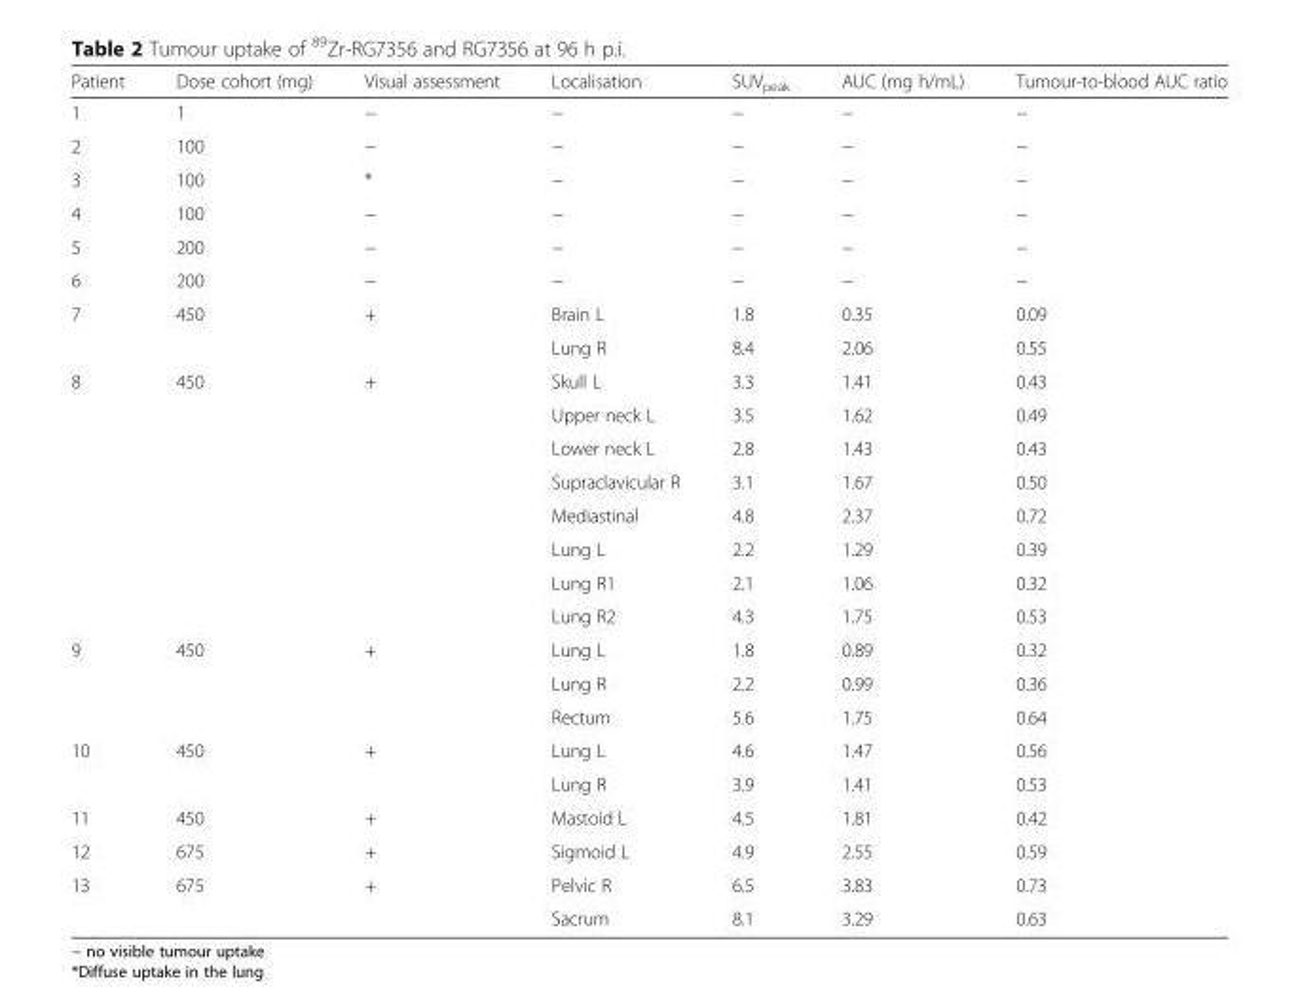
<table><thead><tr><td>Patient</td><td>Dose cohort (mg)</td><td>Visual assessment</td><td>Localisation</td><td>SUV<sub>peak</sub></td><td>AUC (mg h/mL)</td><td>Tumour-to-blood AUC ratio</td></tr></thead><tbody><tr><td>1</td><td>1</td><td>−</td><td>−</td><td>−</td><td>−</td><td>−</td></tr><tr><td>2</td><td>100</td><td>−</td><td>−</td><td>−</td><td>−</td><td>−</td></tr><tr><td>3</td><td>100</td><td>*</td><td>−</td><td>−</td><td>−</td><td>−</td></tr><tr><td>4</td><td>100</td><td>−</td><td>−</td><td>−</td><td>−</td><td>−</td></tr><tr><td>5</td><td>200</td><td>−</td><td>−</td><td>−</td><td>−</td><td>−</td></tr><tr><td>6</td><td>200</td><td>−</td><td>−</td><td>−</td><td>−</td><td>−</td></tr><tr><td rowspan="2">7</td><td rowspan="2">450</td><td rowspan="2">+</td><td>Brain L</td><td>1.8</td><td>0.35</td><td>0.09</td></tr><tr><td>Lung R</td><td>8.4</td><td>2.06</td><td>0.55</td></tr><tr><td rowspan="8">8</td><td rowspan="8">450</td><td rowspan="8">+</td><td>Skull L</td><td>3.3</td><td>1.41</td><td>0.43</td></tr><tr><td>Upper neck L</td><td>3.5</td><td>1.62</td><td>0.49</td></tr><tr><td>Lower neck L</td><td>2.8</td><td>1.43</td><td>0.43</td></tr><tr><td>Supraclavicular R</td><td>3.1</td><td>1.67</td><td>0.50</td></tr><tr><td>Mediastinal</td><td>4.8</td><td>2.37</td><td>0.72</td></tr><tr><td>Lung L</td><td>2.2</td><td>1.29</td><td>0.39</td></tr><tr><td>Lung R1</td><td>2.1</td><td>1.06</td><td>0.32</td></tr><tr><td>Lung R2</td><td>4.3</td><td>1.75</td><td>0.53</td></tr><tr><td rowspan="3">9</td><td rowspan="3">450</td><td rowspan="3">+</td><td>Lung L</td><td>1.8</td><td>0.89</td><td>0.32</td></tr><tr><td>Lung R</td><td>2.2</td><td>0.99</td><td>0.36</td></tr><tr><td>Rectum</td><td>5.6</td><td>1.75</td><td>0.64</td></tr><tr><td rowspan="2">10</td><td rowspan="2">450</td><td rowspan="2">+</td><td>Lung L</td><td>4.6</td><td>1.47</td><td>0.56</td></tr><tr><td>Lung R</td><td>3.9</td><td>1.41</td><td>0.53</td></tr><tr><td>11</td><td>450</td><td>+</td><td>Mastoid L</td><td>4.5</td><td>1.81</td><td>0.42</td></tr><tr><td>12</td><td>675</td><td>+</td><td>Sigmoid L</td><td>4.9</td><td>2.55</td><td>0.59</td></tr><tr><td rowspan="2">13</td><td rowspan="2">675</td><td rowspan="2">+</td><td>Pelvic R</td><td>6.5</td><td>3.83</td><td>0.73</td></tr><tr><td>Sacrum</td><td>8.1</td><td>3.29</td><td>0.63</td></tr></tbody></table>